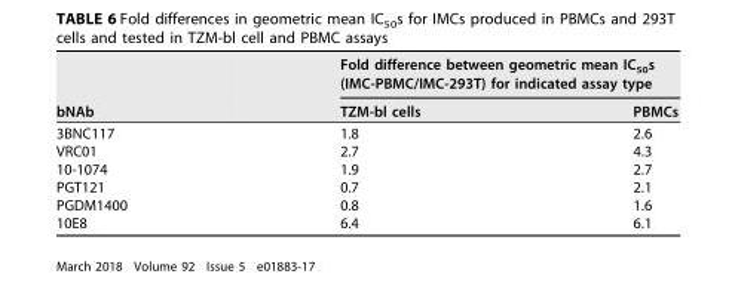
<table><thead><tr><td rowspan="2">bNAb</td><td colspan="2">Fold difference between geometric mean IC<sub>50</sub>s (IMC-PBMC/IMC-293T) for indicated assay type</td></tr><tr><td>TZM-bl cells</td><td>PBMCs</td></tr></thead><tbody><tr><td>3BNC117</td><td>1.8</td><td>2.6</td></tr><tr><td>VRC01</td><td>2.7</td><td>4.3</td></tr><tr><td>10-1074</td><td>1.9</td><td>2.7</td></tr><tr><td>PGT121</td><td>0.7</td><td>2.1</td></tr><tr><td>PGDM1400</td><td>0.8</td><td>1.6</td></tr><tr><td>10E8</td><td>6.4</td><td>6.1</td></tr></tbody></table>